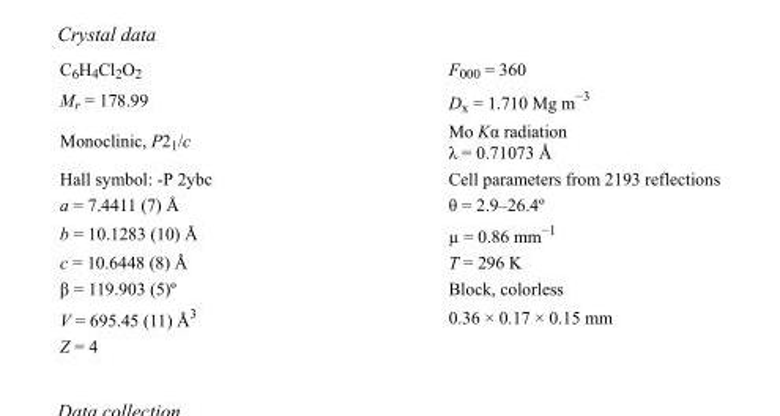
<table><tbody><tr><td>C<sub>6</sub>H<sub>4</sub>Cl<sub>2</sub>O<sub>2</sub></td><td>F<sub>000</sub> = 360</td></tr><tr><td>M<sub>r</sub> = 178.99</td><td>D<sub>x</sub> = 1.710 Mg m<sup>−3</sup></td></tr><tr><td>Monoclinic, P2<sub>1</sub>/c</td><td>Mo Kα radiation λ = 0.71073 Å</td></tr><tr><td>Hall symbol: -P 2ybc</td><td>Cell parameters from 2193 reflections</td></tr><tr><td>a = 7.4411 (7) Å</td><td>θ = 2.9–26.4º</td></tr><tr><td>b = 10.1283 (10) Å</td><td>µ = 0.86 mm<sup>−1</sup></td></tr><tr><td>c = 10.6448 (8) Å</td><td>T = 296 K</td></tr><tr><td>β = 119.903 (5)º</td><td>Block, colorless</td></tr><tr><td>V = 695.45 (11) Å<sup>3</sup></td><td>0.36 × 0.17 × 0.15 mm</td></tr><tr><td>Z = 4</td><td></td></tr></tbody></table>